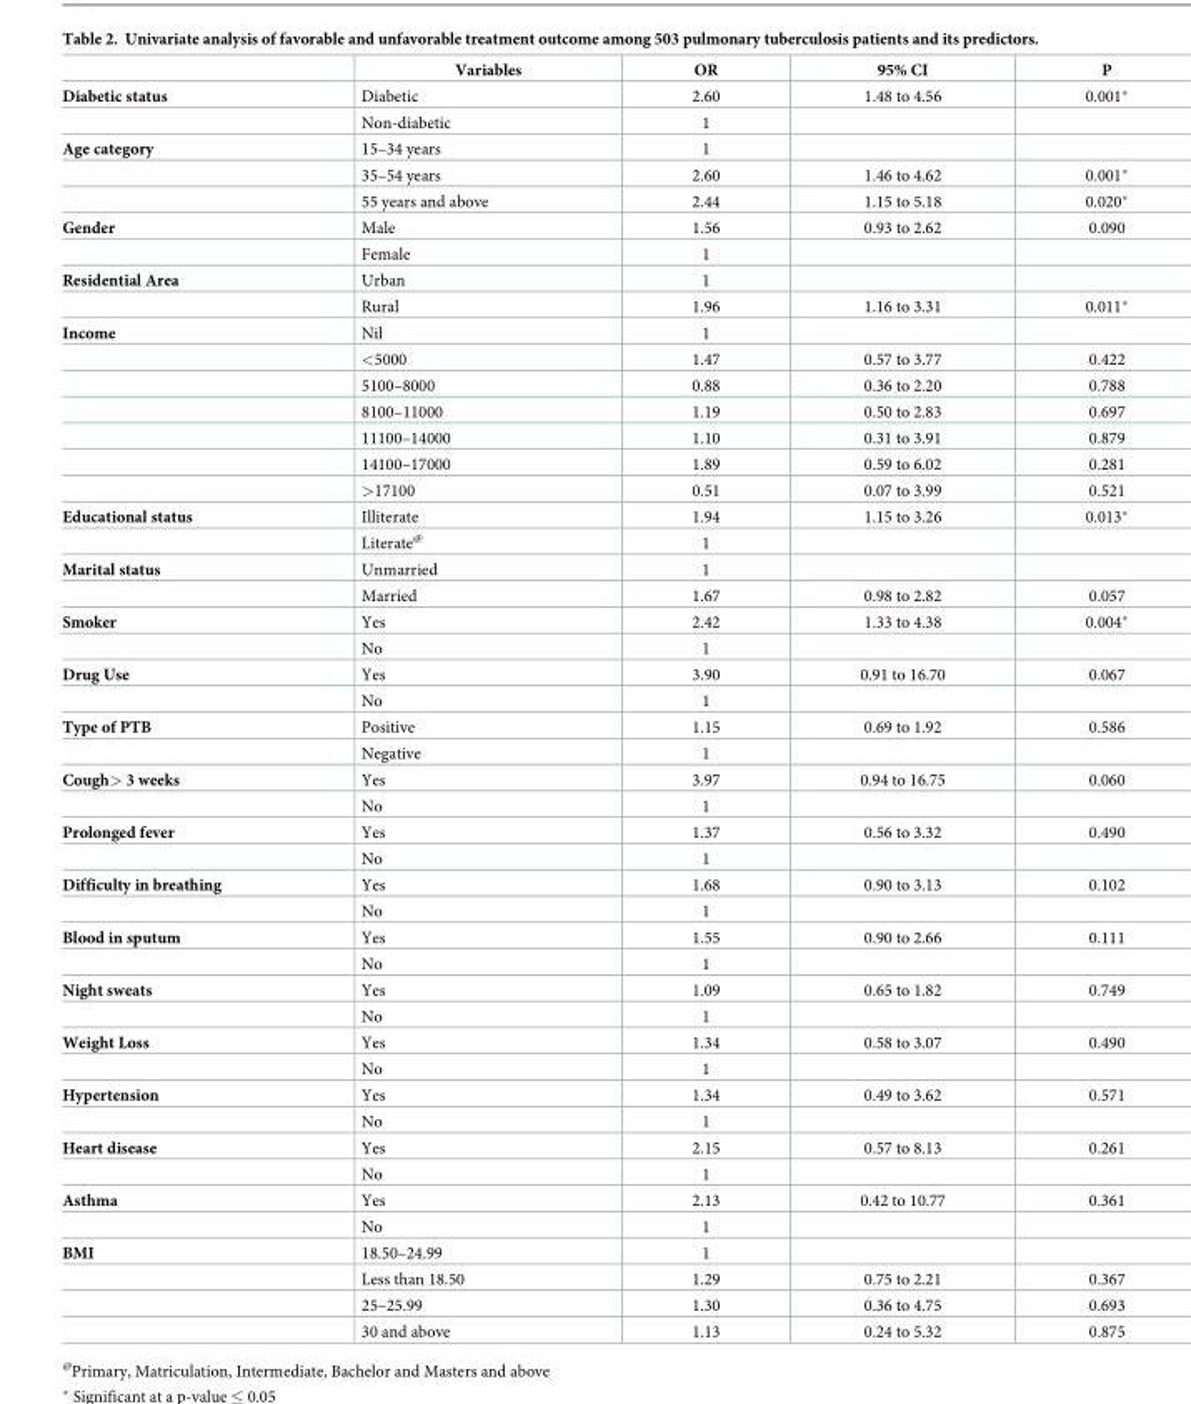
<table><thead><tr><td></td><td>Variables</td><td>OR</td><td>95% CI</td><td>P</td></tr></thead><tbody><tr><td rowspan="2">Diabetic status</td><td>Diabetic</td><td>2.60</td><td>1.48 to 4.56</td><td>0.001*</td></tr><tr><td>Non-diabetic</td><td>1</td><td></td><td></td></tr><tr><td rowspan="3">Age category</td><td>15–34 years</td><td>1</td><td></td><td></td></tr><tr><td>35–54 years</td><td>2.60</td><td>1.46 to 4.62</td><td>0.001*</td></tr><tr><td>55 years and above</td><td>2.44</td><td>1.15 to 5.18</td><td>0.020*</td></tr><tr><td rowspan="2">Gender</td><td>Male</td><td>1.56</td><td>0.93 to 2.62</td><td>0.090</td></tr><tr><td>Female</td><td>1</td><td></td><td></td></tr><tr><td rowspan="2">Residential Area</td><td>Urban</td><td>1</td><td></td><td></td></tr><tr><td>Rural</td><td>1.96</td><td>1.16 to 3.31</td><td>0.011*</td></tr><tr><td rowspan="7">Income</td><td>Nil</td><td>1</td><td></td><td></td></tr><tr><td>&lt;5000</td><td>1.47</td><td>0.57 to 3.77</td><td>0.422</td></tr><tr><td>5100–8000</td><td>0.88</td><td>0.36 to 2.20</td><td>0.788</td></tr><tr><td>8100–11000</td><td>1.19</td><td>0.50 to 2.83</td><td>0.697</td></tr><tr><td>11100–14000</td><td>1.10</td><td>0.31 to 3.91</td><td>0.879</td></tr><tr><td>14100–17000</td><td>1.89</td><td>0.59 to 6.02</td><td>0.281</td></tr><tr><td>&gt;17100</td><td>0.51</td><td>0.07 to 3.99</td><td>0.521</td></tr><tr><td rowspan="2">Educational status</td><td>Illiterate</td><td>1.94</td><td>1.15 to 3.26</td><td>0.013*</td></tr><tr><td>Literate<sup>@</sup></td><td>1</td><td></td><td></td></tr><tr><td rowspan="2">Marital status</td><td>Unmarried</td><td>1</td><td></td><td></td></tr><tr><td>Married</td><td>1.67</td><td>0.98 to 2.82</td><td>0.057</td></tr><tr><td rowspan="2">Smoker</td><td>Yes</td><td>2.42</td><td>1.33 to 4.38</td><td>0.004*</td></tr><tr><td>No</td><td>1</td><td></td><td></td></tr><tr><td rowspan="2">Drug Use</td><td>Yes</td><td>3.90</td><td>0.91 to 16.70</td><td>0.067</td></tr><tr><td>No</td><td>1</td><td></td><td></td></tr><tr><td rowspan="2">Type of PTB</td><td>Positive</td><td>1.15</td><td>0.69 to 1.92</td><td>0.586</td></tr><tr><td>Negative</td><td>1</td><td></td><td></td></tr><tr><td rowspan="2">Cough&gt; 3 weeks</td><td>Yes</td><td>3.97</td><td>0.94 to 16.75</td><td>0.060</td></tr><tr><td>No</td><td>1</td><td></td><td></td></tr><tr><td rowspan="2">Prolonged fever</td><td>Yes</td><td>1.37</td><td>0.56 to 3.32</td><td>0.490</td></tr><tr><td>No</td><td>1</td><td></td><td></td></tr><tr><td rowspan="2">Difficulty in breathing</td><td>Yes</td><td>1.68</td><td>0.90 to 3.13</td><td>0.102</td></tr><tr><td>No</td><td>1</td><td></td><td></td></tr><tr><td rowspan="2">Blood in sputum</td><td>Yes</td><td>1.55</td><td>0.90 to 2.66</td><td>0.111</td></tr><tr><td>No</td><td>1</td><td></td><td></td></tr><tr><td rowspan="2">Night sweats</td><td>Yes</td><td>1.09</td><td>0.65 to 1.82</td><td>0.749</td></tr><tr><td>No</td><td>1</td><td></td><td></td></tr><tr><td rowspan="2">Weight Loss</td><td>Yes</td><td>1.34</td><td>0.58 to 3.07</td><td>0.490</td></tr><tr><td>No</td><td>1</td><td></td><td></td></tr><tr><td rowspan="2">Hypertension</td><td>Yes</td><td>1.34</td><td>0.49 to 3.62</td><td>0.571</td></tr><tr><td>No</td><td>1</td><td></td><td></td></tr><tr><td rowspan="2">Heart disease</td><td>Yes</td><td>2.15</td><td>0.57 to 8.13</td><td>0.261</td></tr><tr><td>No</td><td>1</td><td></td><td></td></tr><tr><td rowspan="2">Asthma</td><td>Yes</td><td>2.13</td><td>0.42 to 10.77</td><td>0.361</td></tr><tr><td>No</td><td>1</td><td></td><td></td></tr><tr><td rowspan="4">BMI</td><td>18.50–24.99</td><td>1</td><td></td><td></td></tr><tr><td>Less than 18.50</td><td>1.29</td><td>0.75 to 2.21</td><td>0.367</td></tr><tr><td>25–25.99</td><td>1.30</td><td>0.36 to 4.75</td><td>0.693</td></tr><tr><td>30 and above</td><td>1.13</td><td>0.24 to 5.32</td><td>0.875</td></tr></tbody></table>